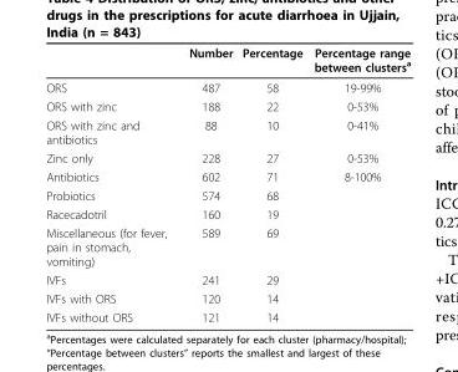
<table><thead><tr><td></td><td>Number</td><td>Percentage</td><td>Percentage range between clusters<sup>a</sup></td></tr></thead><tbody><tr><td>ORS</td><td>487</td><td>58</td><td>19-99%</td></tr><tr><td>ORS with zinc</td><td>188</td><td>22</td><td>0-53%</td></tr><tr><td>ORS with zinc and antibiotics</td><td>88</td><td>10</td><td>0-41%</td></tr><tr><td>Zinc only</td><td>228</td><td>27</td><td>0-53%</td></tr><tr><td>Antibiotics</td><td>602</td><td>71</td><td>8-100%</td></tr><tr><td>Probiotics</td><td>574</td><td>68</td><td></td></tr><tr><td>Racecadotril</td><td>160</td><td>19</td><td></td></tr><tr><td>Miscellaneous (for fever, pain in stomach, vomiting)</td><td>589</td><td>69</td><td></td></tr><tr><td>IVFs</td><td>241</td><td>29</td><td></td></tr><tr><td>IVFs with ORS</td><td>120</td><td>14</td><td></td></tr><tr><td>IVFs without ORS</td><td>121</td><td>14</td><td></td></tr></tbody></table>